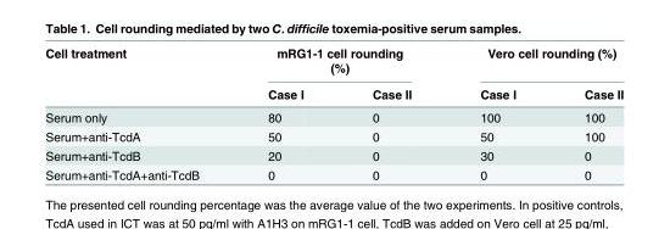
<table><thead><tr><td rowspan="2">Cell treatment</td><td colspan="2">mRG1-1 cell rounding (%)</td><td colspan="2">Vero cell rounding (%)</td></tr><tr><td>Case I</td><td>Case II</td><td>Case I</td><td>Case II</td></tr></thead><tbody><tr><td>Serum only</td><td>80</td><td>0</td><td>100</td><td>100</td></tr><tr><td>Serum+anti-TcdA</td><td>50</td><td>0</td><td>50</td><td>100</td></tr><tr><td>Serum+anti-TcdB</td><td>20</td><td>0</td><td>30</td><td>0</td></tr><tr><td>Serum+anti-TcdA+anti-TcdB</td><td>0</td><td>0</td><td>0</td><td>0</td></tr></tbody></table>